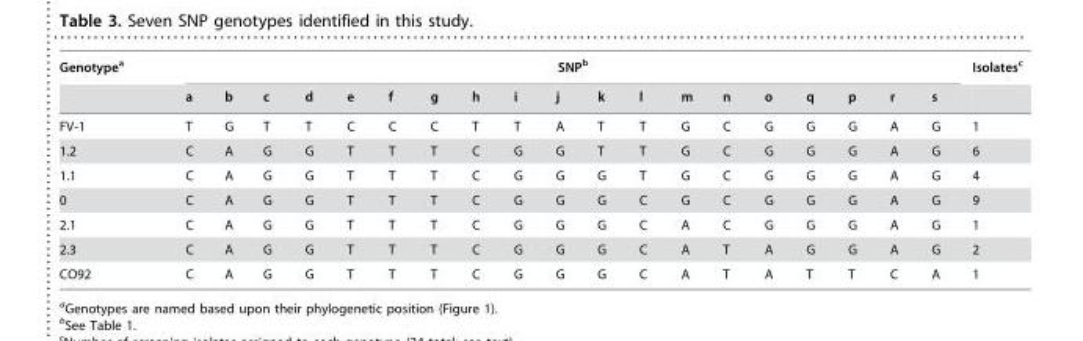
<table><thead><tr><td rowspan="2">Genotype<sup>a</sup></td><td colspan="19">SNP<sup>b</sup></td><td rowspan="2">Isolates<sup>c</sup></td></tr><tr><td>a</td><td>b</td><td>c</td><td>d</td><td>e</td><td>f</td><td>g</td><td>h</td><td>i</td><td>j</td><td>k</td><td>l</td><td>m</td><td>n</td><td>o</td><td>q</td><td>p</td><td>r</td><td>s</td></tr></thead><tbody><tr><td>FV-1</td><td>T</td><td>G</td><td>T</td><td>T</td><td>C</td><td>C</td><td>C</td><td>T</td><td>T</td><td>A</td><td>T</td><td>T</td><td>G</td><td>C</td><td>G</td><td>G</td><td>G</td><td>A</td><td>G</td><td>1</td></tr><tr><td>1.2</td><td>C</td><td>A</td><td>G</td><td>G</td><td>T</td><td>T</td><td>T</td><td>C</td><td>G</td><td>G</td><td>T</td><td>T</td><td>G</td><td>C</td><td>G</td><td>G</td><td>G</td><td>A</td><td>G</td><td>6</td></tr><tr><td>1.1</td><td>C</td><td>A</td><td>G</td><td>G</td><td>T</td><td>T</td><td>T</td><td>C</td><td>G</td><td>G</td><td>G</td><td>T</td><td>G</td><td>C</td><td>G</td><td>G</td><td>G</td><td>A</td><td>G</td><td>4</td></tr><tr><td>0</td><td>C</td><td>A</td><td>G</td><td>G</td><td>T</td><td>T</td><td>T</td><td>C</td><td>G</td><td>G</td><td>G</td><td>C</td><td>G</td><td>C</td><td>G</td><td>G</td><td>G</td><td>A</td><td>G</td><td>9</td></tr><tr><td>2.1</td><td>C</td><td>A</td><td>G</td><td>G</td><td>T</td><td>T</td><td>T</td><td>C</td><td>G</td><td>G</td><td>G</td><td>C</td><td>A</td><td>C</td><td>G</td><td>G</td><td>G</td><td>A</td><td>G</td><td>1</td></tr><tr><td>2.3</td><td>C</td><td>A</td><td>G</td><td>G</td><td>T</td><td>T</td><td>T</td><td>C</td><td>G</td><td>G</td><td>G</td><td>C</td><td>A</td><td>T</td><td>A</td><td>G</td><td>G</td><td>A</td><td>G</td><td>2</td></tr><tr><td>CO92</td><td>C</td><td>A</td><td>G</td><td>G</td><td>T</td><td>T</td><td>T</td><td>C</td><td>G</td><td>G</td><td>G</td><td>C</td><td>A</td><td>T</td><td>A</td><td>T</td><td>T</td><td>C</td><td>A</td><td>1</td></tr></tbody></table>